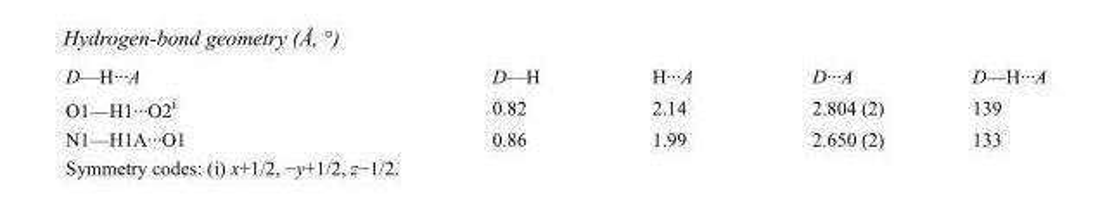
<table><tbody><tr><td>D—H···A</td><td>D—H</td><td>H···A</td><td>D···A</td><td>D—H···A</td></tr><tr><td>O1—H1···O2<sup>i</sup></td><td>0.82</td><td>2.14</td><td>2.804 (2)</td><td>139</td></tr><tr><td>N1—H1A···O1</td><td>0.86</td><td>1.99</td><td>2.650 (2)</td><td>133</td></tr></tbody></table>